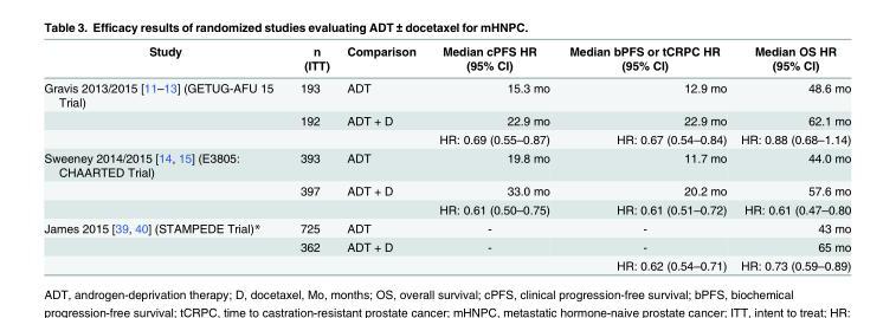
<table><thead><tr><td>Study</td><td>n (ITT)</td><td>Comparison</td><td>Median cPFS HR (95% CI)</td><td>Median bPFS or tCRPC HR (95% CI)</td><td>Median OS HR (95% CI)</td></tr></thead><tbody><tr><td rowspan="3">Gravis 2013/2015 [11–13] (GETUG-AFU 15 Trial)</td><td>193</td><td>ADT</td><td>15.3 mo</td><td>12.9 mo</td><td>48.6 mo</td></tr><tr><td>192</td><td>ADT + D</td><td>22.9 mo</td><td>22.9 mo</td><td>62.1 mo</td></tr><tr><td></td><td></td><td>HR: 0.69 (0.55–0.87)</td><td>HR: 0.67 (0.54–0.84)</td><td>HR: 0.88 (0.68–1.14)</td></tr><tr><td rowspan="3">Sweeney 2014/2015 [14, 15] (E3805: CHAARTED Trial)</td><td>393</td><td>ADT</td><td>19.8 mo</td><td>11.7 mo</td><td>44.0 mo</td></tr><tr><td>397</td><td>ADT + D</td><td>33.0 mo</td><td>20.2 mo</td><td>57.6 mo</td></tr><tr><td></td><td></td><td>HR: 0.61 (0.50–0.75)</td><td>HR: 0.61 (0.51–0.72)</td><td>HR: 0.61 (0.47–0.80</td></tr><tr><td rowspan="3">James 2015 [39, 40] (STAMPEDE Trial)*</td><td>725</td><td>ADT</td><td>-</td><td>-</td><td>43 mo</td></tr><tr><td>362</td><td>ADT + D</td><td>-</td><td>-</td><td>65 mo</td></tr><tr><td></td><td></td><td></td><td>HR: 0.62 (0.54–0.71)</td><td>HR: 0.73 (0.59–0.89)</td></tr></tbody></table>